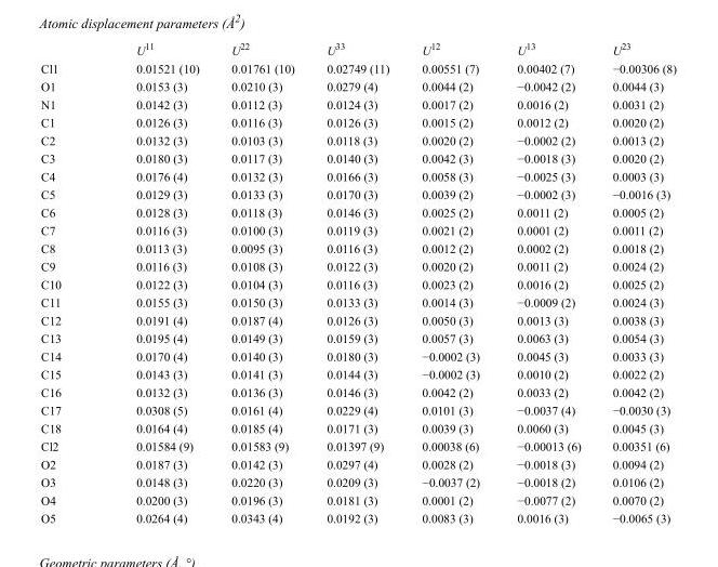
<table><thead><tr><td></td><td>U<sup>11</sup></td><td>U<sup>22</sup></td><td>U<sup>33</sup></td><td>U<sup>12</sup></td><td>U<sup>13</sup></td><td>U<sup>23</sup></td></tr></thead><tbody><tr><td>Cl1</td><td>0.01521 (10)</td><td>0.01761 (10)</td><td>0.02749 (11)</td><td>0.00551 (7)</td><td>0.00402 (7)</td><td>−0.00306 (8)</td></tr><tr><td>O1</td><td>0.0153 (3)</td><td>0.0210 (3)</td><td>0.0279 (4)</td><td>0.0044 (2)</td><td>−0.0042 (2)</td><td>0.0044 (3)</td></tr><tr><td>N1</td><td>0.0142 (3)</td><td>0.0112 (3)</td><td>0.0124 (3)</td><td>0.0017 (2)</td><td>0.0016 (2)</td><td>0.0031 (2)</td></tr><tr><td>C1</td><td>0.0126 (3)</td><td>0.0116 (3)</td><td>0.0126 (3)</td><td>0.0015 (2)</td><td>0.0012 (2)</td><td>0.0020 (2)</td></tr><tr><td>C2</td><td>0.0132 (3)</td><td>0.0103 (3)</td><td>0.0118 (3)</td><td>0.0020 (2)</td><td>−0.0002 (2)</td><td>0.0013 (2)</td></tr><tr><td>C3</td><td>0.0180 (3)</td><td>0.0117 (3)</td><td>0.0140 (3)</td><td>0.0042 (3)</td><td>−0.0018 (3)</td><td>0.0020 (2)</td></tr><tr><td>C4</td><td>0.0176 (4)</td><td>0.0132 (3)</td><td>0.0166 (3)</td><td>0.0058 (3)</td><td>−0.0025 (3)</td><td>0.0003 (3)</td></tr><tr><td>C5</td><td>0.0129 (3)</td><td>0.0133 (3)</td><td>0.0170 (3)</td><td>0.0039 (2)</td><td>−0.0002 (3)</td><td>−0.0016 (3)</td></tr><tr><td>C6</td><td>0.0128 (3)</td><td>0.0118 (3)</td><td>0.0146 (3)</td><td>0.0025 (2)</td><td>0.0011 (2)</td><td>0.0005 (2)</td></tr><tr><td>C7</td><td>0.0116 (3)</td><td>0.0100 (3)</td><td>0.0119 (3)</td><td>0.0021 (2)</td><td>0.0001 (2)</td><td>0.0011 (2)</td></tr><tr><td>C8</td><td>0.0113 (3)</td><td>0.0095 (3)</td><td>0.0116 (3)</td><td>0.0012 (2)</td><td>0.0002 (2)</td><td>0.0018 (2)</td></tr><tr><td>C9</td><td>0.0116 (3)</td><td>0.0108 (3)</td><td>0.0122 (3)</td><td>0.0020 (2)</td><td>0.0011 (2)</td><td>0.0024 (2)</td></tr><tr><td>C10</td><td>0.0122 (3)</td><td>0.0104 (3)</td><td>0.0116 (3)</td><td>0.0023 (2)</td><td>0.0016 (2)</td><td>0.0025 (2)</td></tr><tr><td>C11</td><td>0.0155 (3)</td><td>0.0150 (3)</td><td>0.0133 (3)</td><td>0.0014 (3)</td><td>−0.0009 (2)</td><td>0.0024 (3)</td></tr><tr><td>C12</td><td>0.0191 (4)</td><td>0.0187 (4)</td><td>0.0126 (3)</td><td>0.0050 (3)</td><td>0.0013 (3)</td><td>0.0038 (3)</td></tr><tr><td>C13</td><td>0.0195 (4)</td><td>0.0149 (3)</td><td>0.0159 (3)</td><td>0.0057 (3)</td><td>0.0063 (3)</td><td>0.0054 (3)</td></tr><tr><td>C14</td><td>0.0170 (4)</td><td>0.0140 (3)</td><td>0.0180 (3)</td><td>−0.0002 (3)</td><td>0.0045 (3)</td><td>0.0033 (3)</td></tr><tr><td>C15</td><td>0.0143 (3)</td><td>0.0141 (3)</td><td>0.0144 (3)</td><td>−0.0002 (3)</td><td>0.0010 (2)</td><td>0.0022 (2)</td></tr><tr><td>C16</td><td>0.0132 (3)</td><td>0.0136 (3)</td><td>0.0146 (3)</td><td>0.0042 (2)</td><td>0.0033 (2)</td><td>0.0042 (2)</td></tr><tr><td>C17</td><td>0.0308 (5)</td><td>0.0161 (4)</td><td>0.0229 (4)</td><td>0.0101 (3)</td><td>−0.0037 (4)</td><td>−0.0030 (3)</td></tr><tr><td>C18</td><td>0.0164 (4)</td><td>0.0185 (4)</td><td>0.0171 (3)</td><td>0.0039 (3)</td><td>0.0060 (3)</td><td>0.0045 (3)</td></tr><tr><td>Cl2</td><td>0.01584 (9)</td><td>0.01583 (9)</td><td>0.01397 (9)</td><td>0.00038 (6)</td><td>−0.00013 (6)</td><td>0.00351 (6)</td></tr><tr><td>O2</td><td>0.0187 (3)</td><td>0.0142 (3)</td><td>0.0297 (4)</td><td>0.0028 (2)</td><td>−0.0018 (3)</td><td>0.0094 (2)</td></tr><tr><td>O3</td><td>0.0148 (3)</td><td>0.0220 (3)</td><td>0.0209 (3)</td><td>−0.0037 (2)</td><td>−0.0018 (2)</td><td>0.0106 (2)</td></tr><tr><td>O4</td><td>0.0200 (3)</td><td>0.0196 (3)</td><td>0.0181 (3)</td><td>0.0001 (2)</td><td>−0.0077 (2)</td><td>0.0070 (2)</td></tr><tr><td>O5</td><td>0.0264 (4)</td><td>0.0343 (4)</td><td>0.0192 (3)</td><td>0.0083 (3)</td><td>0.0016 (3)</td><td>−0.0065 (3)</td></tr></tbody></table>